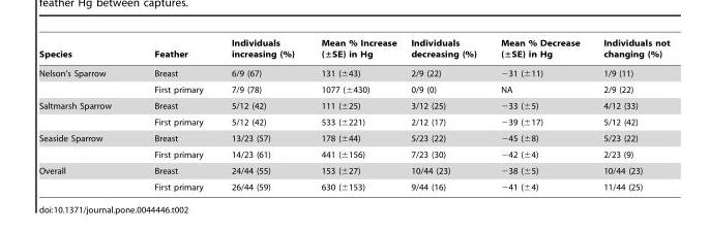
<table><thead><tr><td>Species</td><td>Feather</td><td>Individuals increasing (%)</td><td>Mean % Increase (±SE) in Hg</td><td>Individuals decreasing (%)</td><td>Mean % Decrease (±SE) in Hg</td><td>Individuals not changing (%)</td></tr></thead><tbody><tr><td rowspan="2">Nelson’s Sparrow</td><td>Breast</td><td>6/9 (67)</td><td>131 (±43)</td><td>2/9 (22)</td><td>−31 (±11)</td><td>1/9 (11)</td></tr><tr><td>First primary</td><td>7/9 (78)</td><td>1077 (±430)</td><td>0/9 (0)</td><td>NA</td><td>2/9 (22)</td></tr><tr><td rowspan="2">Saltmarsh Sparrow</td><td>Breast</td><td>5/12 (42)</td><td>111 (±25)</td><td>3/12 (25)</td><td>−33 (±5)</td><td>4/12 (33)</td></tr><tr><td>First primary</td><td>5/12 (42)</td><td>533 (±221)</td><td>2/12 (17)</td><td>−39 (±17)</td><td>5/12 (42)</td></tr><tr><td rowspan="2">Seaside Sparrow</td><td>Breast</td><td>13/23 (57)</td><td>178 (±44)</td><td>5/23 (22)</td><td>−45 (±8)</td><td>5/23 (22)</td></tr><tr><td>First primary</td><td>14/23 (61)</td><td>441 (±156)</td><td>7/23 (30)</td><td>−42 (±4)</td><td>2/23 (9)</td></tr><tr><td rowspan="2">Overall</td><td>Breast</td><td>24/44 (55)</td><td>153 (±27)</td><td>10/44 (23)</td><td>−38 (±5)</td><td>10/44 (23)</td></tr><tr><td>First primary</td><td>26/44 (59)</td><td>630 (±153)</td><td>9/44 (16)</td><td>−41 (±4)</td><td>11/44 (25)</td></tr></tbody></table>